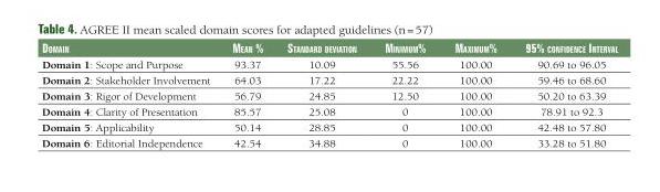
<table><thead><tr><td>DomaiN</td><td>meaN %</td><td>staNDarD DeviatioN</td><td>miNimum%</td><td>maximum%</td><td>95% coNfiDeNce iNterval</td></tr></thead><tbody><tr><td>Domain 1: Scope and Purpose</td><td>93.37</td><td>10.09</td><td>55.56</td><td>100.00</td><td>90.69 to 96.05</td></tr><tr><td>Domain 2: Stakeholder Involvement</td><td>64.03</td><td>17.22</td><td>22.22</td><td>100.00</td><td>59.46 to 68.60</td></tr><tr><td>Domain 3: Rigor of Development</td><td>56.79</td><td>24.85</td><td>12.50</td><td>100.00</td><td>50.20 to 63.39</td></tr><tr><td>Domain 4: Clarity of Presentation</td><td>85.57</td><td>25.08</td><td>0</td><td>100.00</td><td>78.91 to 92.3</td></tr><tr><td>Domain 5: Applicability</td><td>50.14</td><td>28.85</td><td>0</td><td>100.00</td><td>42.48 to 57.80</td></tr><tr><td>Domain 6: Editorial Independence</td><td>42.54</td><td>34.88</td><td>0</td><td>100.00</td><td>33.28 to 51.80</td></tr></tbody></table>